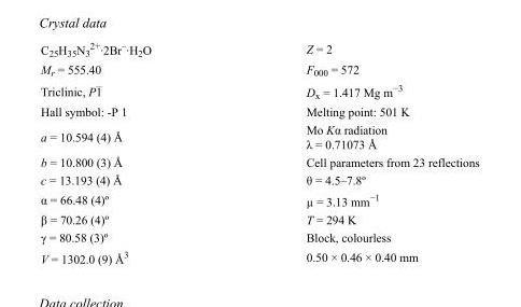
<table><tbody><tr><td>C<sub>25</sub>H<sub>35</sub>N<sub>3</sub> <sup>2+</sup>·2Br<sup>–</sup>·H<sub>2</sub>O</td><td>Z = 2</td></tr><tr><td>M<sub>r</sub> = 555.40</td><td>F000 = 572</td></tr><tr><td>Triclinic, P1</td><td>D<sub>x</sub> = 1.417 Mg m<sup>−3</sup></td></tr><tr><td>Hall symbol: -P 1</td><td>Melting point: 501 K</td></tr><tr><td>a = 10.594 (4) Å</td><td>Mo Kα radiation λ = 0.71073 Å</td></tr><tr><td>b = 10.800 (3) Å</td><td>Cell parameters from 23 reflections</td></tr><tr><td>c = 13.193 (4) Å</td><td>θ = 4.5–7.8º</td></tr><tr><td>α = 66.48 (4)º</td><td>µ = 3.13 mm<sup>−1</sup></td></tr><tr><td>β = 70.26 (4)º</td><td>T = 294 K</td></tr><tr><td>γ = 80.58 (3)º</td><td>Block, colourless</td></tr><tr><td>V = 1302.0 (9) Å<sup>3</sup></td><td>0.50 × 0.46 × 0.40 mm</td></tr></tbody></table>